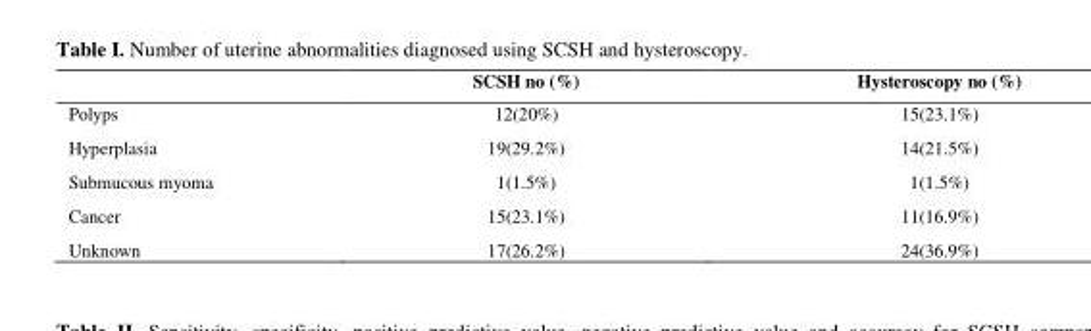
<table><thead><tr><td></td><td>SCSH no (%)</td><td>Hysteroscopy no (%)</td></tr></thead><tbody><tr><td>Polyps</td><td>12(20%)</td><td>15(23.1%)</td></tr><tr><td>Hyperplasia</td><td>19(29.2%)</td><td>14(21.5%)</td></tr><tr><td>Submucous myoma</td><td>1(1.5%)</td><td>1(1.5%)</td></tr><tr><td>Cancer</td><td>15(23.1%)</td><td>11(16.9%)</td></tr><tr><td>Unknown</td><td>17(26.2%)</td><td>24(36.9%)</td></tr></tbody></table>